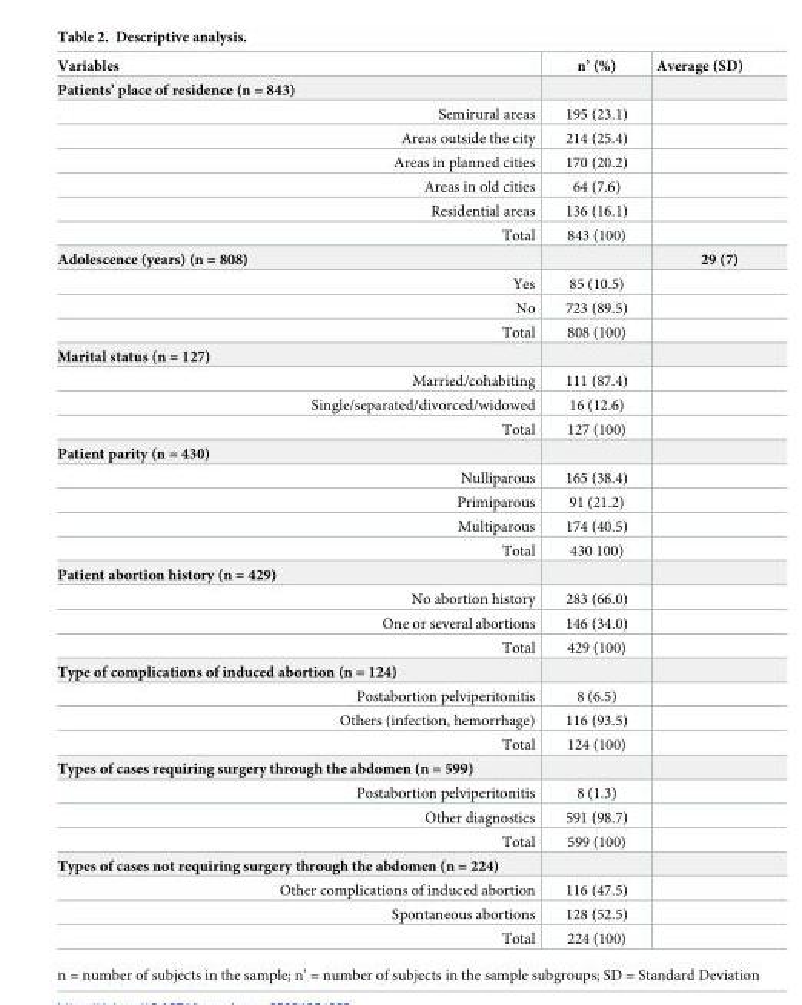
<table><thead><tr><td>Variables</td><td>n’ (%)</td><td>Average (SD)</td></tr></thead><tbody><tr><td colspan="3">Patients’ place of residence (n = 843)</td></tr><tr><td>Semirural areas</td><td>195 (23.1)</td><td></td></tr><tr><td>Areas outside the city</td><td>214 (25.4)</td><td></td></tr><tr><td>Areas in planned cities</td><td>170 (20.2)</td><td></td></tr><tr><td>Areas in old cities</td><td>64 (7.6)</td><td></td></tr><tr><td>Residential areas</td><td>136 (16.1)</td><td></td></tr><tr><td>Total</td><td>843 (100)</td><td></td></tr><tr><td>Adolescence (years) (n = 808)</td><td></td><td>29 (7)</td></tr><tr><td>Yes</td><td>85 (10.5)</td><td></td></tr><tr><td>No</td><td>723 (89.5)</td><td></td></tr><tr><td>Total</td><td>808 (100)</td><td></td></tr><tr><td colspan="3">Marital status (n = 127)</td></tr><tr><td>Married/cohabiting</td><td>111 (87.4)</td><td></td></tr><tr><td>Single/separated/divorced/widowed</td><td>16 (12.6)</td><td></td></tr><tr><td>Total</td><td>127 (100)</td><td></td></tr><tr><td colspan="3">Patient parity (n = 430)</td></tr><tr><td>Nulliparous</td><td>165 (38.4)</td><td></td></tr><tr><td>Primiparous</td><td>91 (21.2)</td><td></td></tr><tr><td>Multiparous</td><td>174 (40.5)</td><td></td></tr><tr><td>Total</td><td>430 100)</td><td></td></tr><tr><td colspan="3">Patient abortion history (n = 429)</td></tr><tr><td>No abortion history</td><td>283 (66.0)</td><td></td></tr><tr><td>One or several abortions</td><td>146 (34.0)</td><td></td></tr><tr><td>Total</td><td>429 (100)</td><td></td></tr><tr><td colspan="3">Type of complications of induced abortion (n = 124)</td></tr><tr><td>Postabortion pelviperitonitis</td><td>8 (6.5)</td><td></td></tr><tr><td>Others (infection, hemorrhage)</td><td>116 (93.5)</td><td></td></tr><tr><td>Total</td><td>124 (100)</td><td></td></tr><tr><td colspan="3">Types of cases requiring surgery through the abdomen (n = 599)</td></tr><tr><td>Postabortion pelviperitonitis</td><td>8 (1.3)</td><td></td></tr><tr><td>Other diagnostics</td><td>591 (98.7)</td><td></td></tr><tr><td>Total</td><td>599 (100)</td><td></td></tr><tr><td colspan="3">Types of cases not requiring surgery through the abdomen (n = 224)</td></tr><tr><td>Other complications of induced abortion</td><td>116 (47.5)</td><td></td></tr><tr><td>Spontaneous abortions</td><td>128 (52.5)</td><td></td></tr><tr><td>Total</td><td>224 (100)</td><td></td></tr></tbody></table>